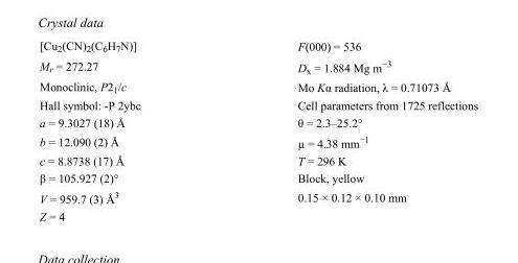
<table><tbody><tr><td>[Cu<sub>2</sub>(CN)<sub>2</sub>(C<sub>6</sub>H<sub>7</sub>N)]</td><td>F(000) = 536</td></tr><tr><td>M<sub>r</sub> = 272.27</td><td>D<sub>x</sub> = 1.884 Mg m<sup>−3</sup></td></tr><tr><td>Monoclinic, P2<sub>1</sub>/c</td><td>Mo Kα radiation, λ = 0.71073 Å</td></tr><tr><td>Hall symbol: -P 2ybc</td><td>Cell parameters from 1725 reflections</td></tr><tr><td>a = 9.3027 (18) Å</td><td>θ = 2.3–25.2°</td></tr><tr><td>b = 12.090 (2) Å</td><td>µ = 4.38 mm<sup>−1</sup></td></tr><tr><td>c = 8.8738 (17) Å</td><td>T = 296 K</td></tr><tr><td>β = 105.927 (2)°</td><td>Block, yellow</td></tr><tr><td>V = 959.7 (3) Å<sup>3</sup></td><td>0.15 × 0.12 × 0.10 mm</td></tr><tr><td>Z = 4</td><td></td></tr></tbody></table>